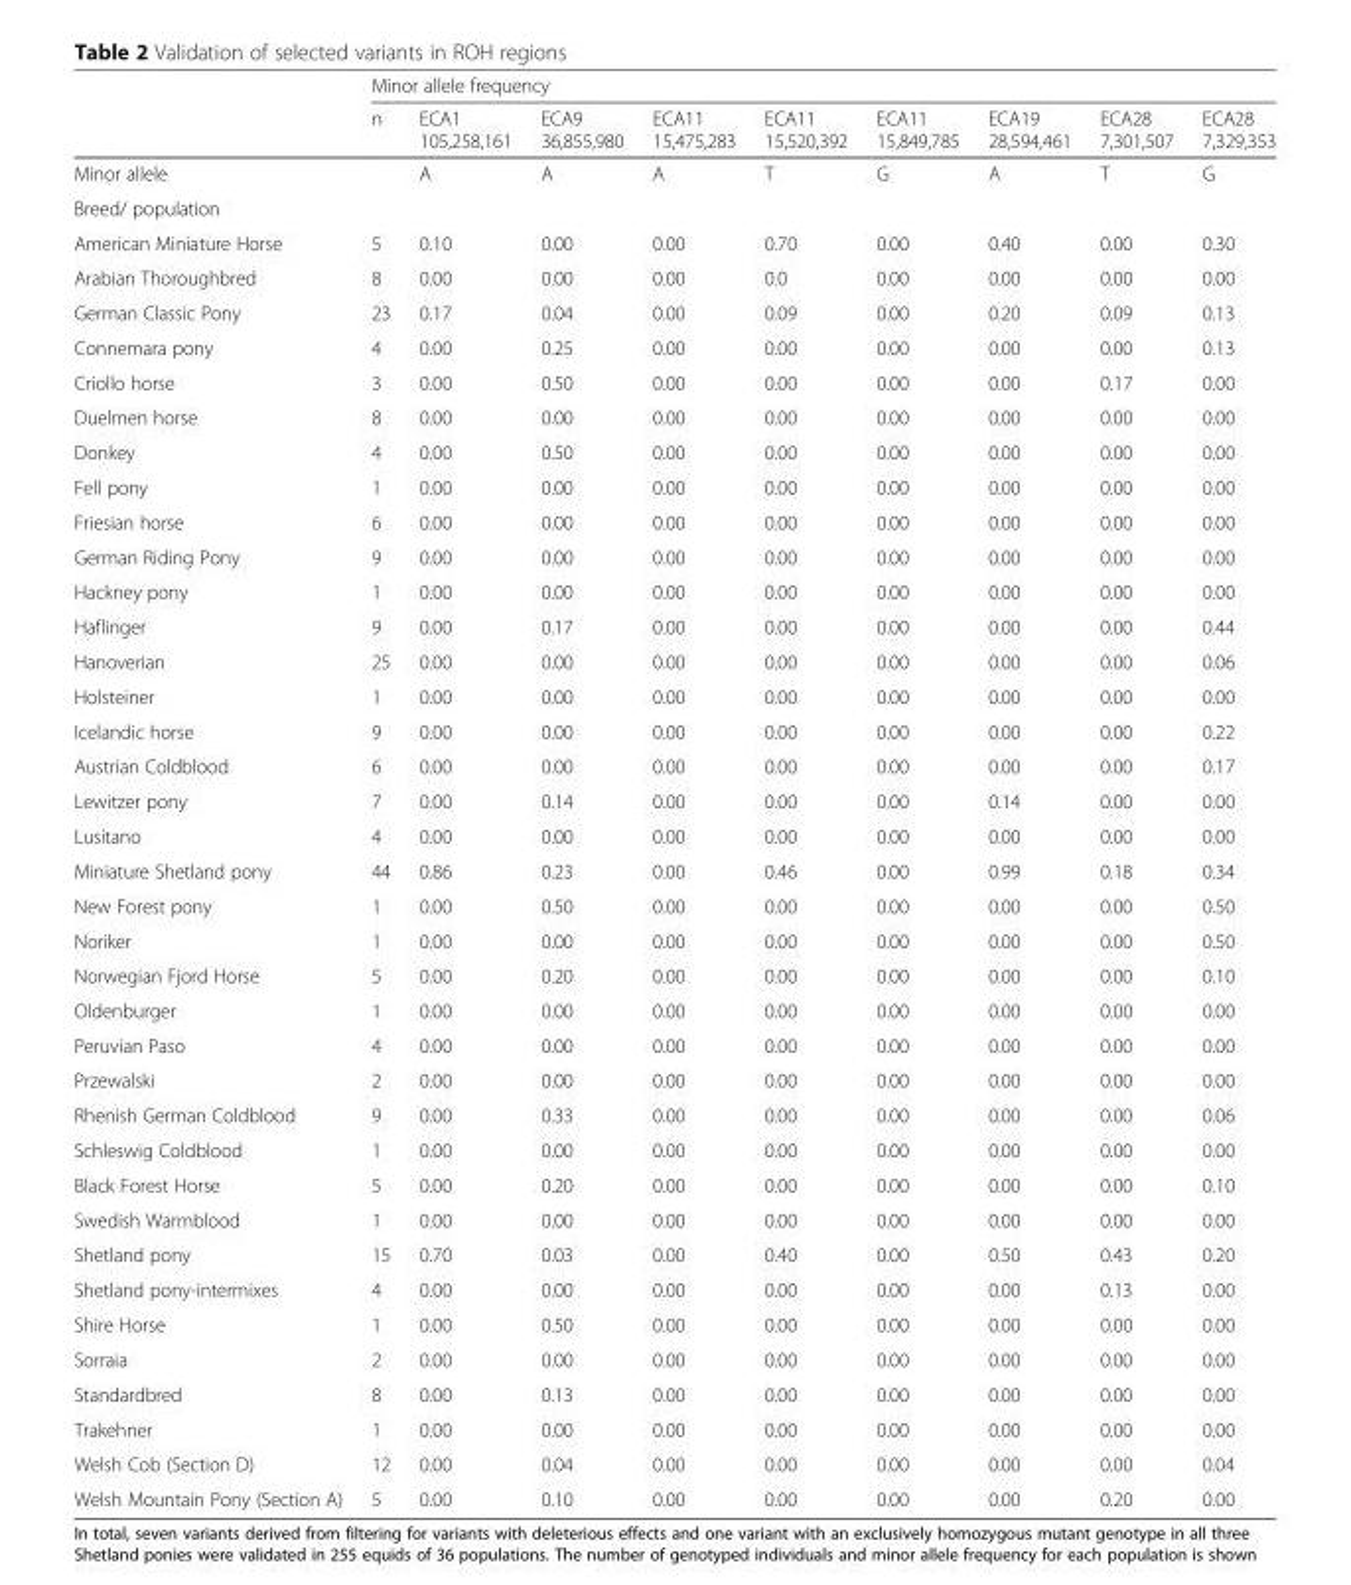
<table><thead><tr><td rowspan="2"></td><td colspan="9">Minor allele frequency</td></tr><tr><td>n</td><td>ECA1 105,258,161</td><td>ECA9 36,855,980</td><td>ECA11 15,475,283</td><td>ECA11 15,520,392</td><td>ECA11 15,849,785</td><td>ECA19 28,594,461</td><td>ECA28 7,301,507</td><td>ECA28 7,329,353</td></tr></thead><tbody><tr><td>Minor allele</td><td></td><td>A</td><td>A</td><td>A</td><td>T</td><td>G</td><td>A</td><td>T</td><td>G</td></tr><tr><td colspan="10">Breed/ population</td></tr><tr><td>American Miniature Horse</td><td>5</td><td>0.10</td><td>0.00</td><td>0.00</td><td>0.70</td><td>0.00</td><td>0.40</td><td>0.00</td><td>0.30</td></tr><tr><td>Arabian Thoroughbred</td><td>8</td><td>0.00</td><td>0.00</td><td>0.00</td><td>0.0</td><td>0.00</td><td>0.00</td><td>0.00</td><td>0.00</td></tr><tr><td>German Classic Pony</td><td>23</td><td>0.17</td><td>0.04</td><td>0.00</td><td>0.09</td><td>0.00</td><td>0.20</td><td>0.09</td><td>0.13</td></tr><tr><td>Connemara pony</td><td>4</td><td>0.00</td><td>0.25</td><td>0.00</td><td>0.00</td><td>0.00</td><td>0.00</td><td>0.00</td><td>0.13</td></tr><tr><td>Criollo horse</td><td>3</td><td>0.00</td><td>0.50</td><td>0.00</td><td>0.00</td><td>0.00</td><td>0.00</td><td>0.17</td><td>0.00</td></tr><tr><td>Duelmen horse</td><td>8</td><td>0.00</td><td>0.00</td><td>0.00</td><td>0.00</td><td>0.00</td><td>0.00</td><td>0.00</td><td>0.00</td></tr><tr><td>Donkey</td><td>4</td><td>0.00</td><td>0.50</td><td>0.00</td><td>0.00</td><td>0.00</td><td>0.00</td><td>0.00</td><td>0.00</td></tr><tr><td>Fell pony</td><td>1</td><td>0.00</td><td>0.00</td><td>0.00</td><td>0.00</td><td>0.00</td><td>0.00</td><td>0.00</td><td>0.00</td></tr><tr><td>Friesian horse</td><td>6</td><td>0.00</td><td>0.00</td><td>0.00</td><td>0.00</td><td>0.00</td><td>0.00</td><td>0.00</td><td>0.00</td></tr><tr><td>German Riding Pony</td><td>9</td><td>0.00</td><td>0.00</td><td>0.00</td><td>0.00</td><td>0.00</td><td>0.00</td><td>0.00</td><td>0.00</td></tr><tr><td>Hackney pony</td><td>1</td><td>0.00</td><td>0.00</td><td>0.00</td><td>0.00</td><td>0.00</td><td>0.00</td><td>0.00</td><td>0.00</td></tr><tr><td>Haflinger</td><td>9</td><td>0.00</td><td>0.17</td><td>0.00</td><td>0.00</td><td>0.00</td><td>0.00</td><td>0.00</td><td>0.44</td></tr><tr><td>Hanoverian</td><td>25</td><td>0.00</td><td>0.00</td><td>0.00</td><td>0.00</td><td>0.00</td><td>0.00</td><td>0.00</td><td>0.06</td></tr><tr><td>Holsteiner</td><td>1</td><td>0.00</td><td>0.00</td><td>0.00</td><td>0.00</td><td>0.00</td><td>0.00</td><td>0.00</td><td>0.00</td></tr><tr><td>Icelandic horse</td><td>9</td><td>0.00</td><td>0.00</td><td>0.00</td><td>0.00</td><td>0.00</td><td>0.00</td><td>0.00</td><td>0.22</td></tr><tr><td>Austrian Coldblood</td><td>6</td><td>0.00</td><td>0.00</td><td>0.00</td><td>0.00</td><td>0.00</td><td>0.00</td><td>0.00</td><td>0.17</td></tr><tr><td>Lewitzer pony</td><td>7</td><td>0.00</td><td>0.14</td><td>0.00</td><td>0.00</td><td>0.00</td><td>0.14</td><td>0.00</td><td>0.00</td></tr><tr><td>Lusitano</td><td>4</td><td>0.00</td><td>0.00</td><td>0.00</td><td>0.00</td><td>0.00</td><td>0.00</td><td>0.00</td><td>0.00</td></tr><tr><td>Miniature Shetland pony</td><td>44</td><td>0.86</td><td>0.23</td><td>0.00</td><td>0.46</td><td>0.00</td><td>0.99</td><td>0.18</td><td>0.34</td></tr><tr><td>New Forest pony</td><td>1</td><td>0.00</td><td>0.50</td><td>0.00</td><td>0.00</td><td>0.00</td><td>0.00</td><td>0.00</td><td>0.50</td></tr><tr><td>Noriker</td><td>1</td><td>0.00</td><td>0.00</td><td>0.00</td><td>0.00</td><td>0.00</td><td>0.00</td><td>0.00</td><td>0.50</td></tr><tr><td>Norwegian Fjord Horse</td><td>5</td><td>0.00</td><td>0.20</td><td>0.00</td><td>0.00</td><td>0.00</td><td>0.00</td><td>0.00</td><td>0.10</td></tr><tr><td>Oldenburger</td><td>1</td><td>0.00</td><td>0.00</td><td>0.00</td><td>0.00</td><td>0.00</td><td>0.00</td><td>0.00</td><td>0.00</td></tr><tr><td>Peruvian Paso</td><td>4</td><td>0.00</td><td>0.00</td><td>0.00</td><td>0.00</td><td>0.00</td><td>0.00</td><td>0.00</td><td>0.00</td></tr><tr><td>Przewalski</td><td>2</td><td>0.00</td><td>0.00</td><td>0.00</td><td>0.00</td><td>0.00</td><td>0.00</td><td>0.00</td><td>0.00</td></tr><tr><td>Rhenish German Coldblood</td><td>9</td><td>0.00</td><td>0.33</td><td>0.00</td><td>0.00</td><td>0.00</td><td>0.00</td><td>0.00</td><td>0.06</td></tr><tr><td>Schleswig Coldblood</td><td>1</td><td>0.00</td><td>0.00</td><td>0.00</td><td>0.00</td><td>0.00</td><td>0.00</td><td>0.00</td><td>0.00</td></tr><tr><td>Black Forest Horse</td><td>5</td><td>0.00</td><td>0.20</td><td>0.00</td><td>0.00</td><td>0.00</td><td>0.00</td><td>0.00</td><td>0.10</td></tr><tr><td>Swedish Warmblood</td><td>1</td><td>0.00</td><td>0.00</td><td>0.00</td><td>0.00</td><td>0.00</td><td>0.00</td><td>0.00</td><td>0.00</td></tr><tr><td>Shetland pony</td><td>15</td><td>0.70</td><td>0.03</td><td>0.00</td><td>0.40</td><td>0.00</td><td>0.50</td><td>0.43</td><td>0.20</td></tr><tr><td>Shetland pony-intermixes</td><td>4</td><td>0.00</td><td>0.00</td><td>0.00</td><td>0.00</td><td>0.00</td><td>0.00</td><td>0.13</td><td>0.00</td></tr><tr><td>Shire Horse</td><td>1</td><td>0.00</td><td>0.50</td><td>0.00</td><td>0.00</td><td>0.00</td><td>0.00</td><td>0.00</td><td>0.00</td></tr><tr><td>Sorraia</td><td>2</td><td>0.00</td><td>0.00</td><td>0.00</td><td>0.00</td><td>0.00</td><td>0.00</td><td>0.00</td><td>0.00</td></tr><tr><td>Standardbred</td><td>8</td><td>0.00</td><td>0.13</td><td>0.00</td><td>0.00</td><td>0.00</td><td>0.00</td><td>0.00</td><td>0.00</td></tr><tr><td>Trakehner</td><td>1</td><td>0.00</td><td>0.00</td><td>0.00</td><td>0.00</td><td>0.00</td><td>0.00</td><td>0.00</td><td>0.00</td></tr><tr><td>Welsh Cob (Section D)</td><td>12</td><td>0.00</td><td>0.04</td><td>0.00</td><td>0.00</td><td>0.00</td><td>0.00</td><td>0.00</td><td>0.04</td></tr><tr><td>Welsh Mountain Pony (Section A)</td><td>5</td><td>0.00</td><td>0.10</td><td>0.00</td><td>0.00</td><td>0.00</td><td>0.00</td><td>0.20</td><td>0.00</td></tr></tbody></table>